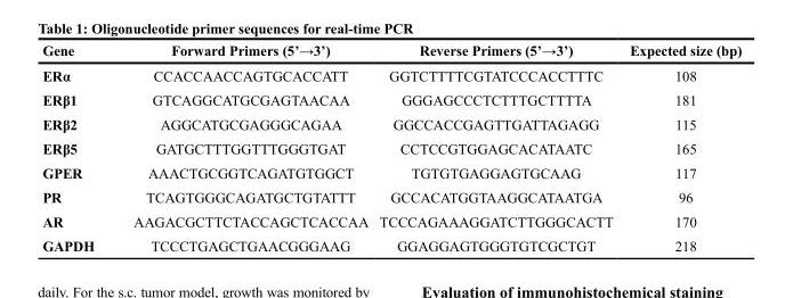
<table><thead><tr><td>Gene</td><td>Forward Primers (5’→3’)</td><td>Reverse Primers (5’→3’)</td><td>Expected size (bp)</td></tr></thead><tbody><tr><td>ERα</td><td>CCACCAACCAGTGCACCATT</td><td>GGTCTTTTCGTATCCCACCTTTC</td><td>108</td></tr><tr><td>ERβ1</td><td>GTCAGGCATGCGAGTAACAA</td><td>GGGAGCCCTCTTTGCTTTTA</td><td>181</td></tr><tr><td>ERβ2</td><td>AGGCATGCGAGGGCAGAA</td><td>GGCCACCGAGTTGATTAGAGG</td><td>115</td></tr><tr><td>ERβ5</td><td>GATGCTTTGGTTTGGGTGAT</td><td>CCTCCGTGGAGCACATAATC</td><td>165</td></tr><tr><td>GPER</td><td>AAACTGCGGTCAGATGTGGCT</td><td>TGTGTGAGGAGTGCAAG</td><td>117</td></tr><tr><td>PR</td><td>TCAGTGGGCAGATGCTGTATTT</td><td>GCCACATGGTAAGGCATAATGA</td><td>96</td></tr><tr><td>AR</td><td>AAGACGCTTCTACCAGCTCACCAA</td><td>TCCCAGAAAGGATCTTGGGCACTT</td><td>170</td></tr><tr><td>GAPDH</td><td>TCCCTGAGCTGAACGGGAAG</td><td>GGAGGAGTGGGTGTCGCTGT</td><td>218</td></tr></tbody></table>